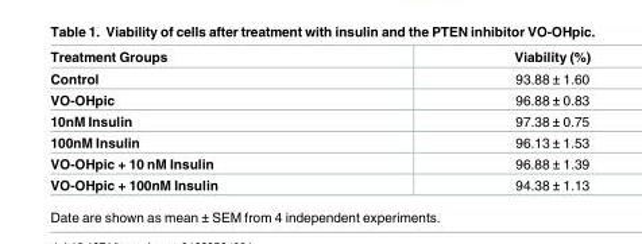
<table><thead><tr><td>Treatment Groups</td><td>Viability (%)</td></tr></thead><tbody><tr><td>Control</td><td>93.88 ± 1.60</td></tr><tr><td>VO-OHpic</td><td>96.88 ± 0.83</td></tr><tr><td>10nM Insulin</td><td>97.38 ± 0.75</td></tr><tr><td>100nM Insulin</td><td>96.13 ± 1.53</td></tr><tr><td>VO-OHpic + 10 nM Insulin</td><td>96.88 ± 1.39</td></tr><tr><td>VO-OHpic + 100nM Insulin</td><td>94.38 ± 1.13</td></tr></tbody></table>